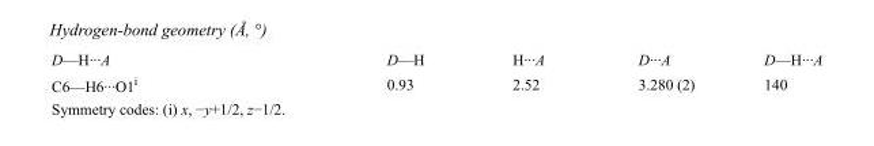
<table><tbody><tr><td>D—H···A</td><td>D—H</td><td>H···A</td><td>D···A</td><td>D—H···A</td></tr><tr><td>C6—H6···O1<sup>i</sup></td><td>0.93</td><td>2.52</td><td>3.280 (2)</td><td>140</td></tr></tbody></table>